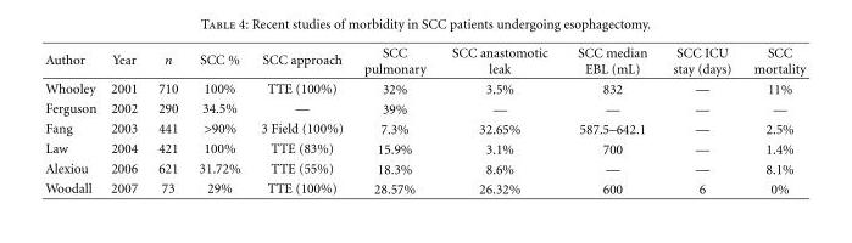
<table><thead><tr><td>Author</td><td>Year</td><td>n</td><td>SCC %</td><td>SCC approach</td><td>SCC pulmonary</td><td>SCC anastomotic leak</td><td>SCC median EBL (mL)</td><td>SCC ICU stay (days)</td><td>SCC mortality</td></tr></thead><tbody><tr><td>Whooley</td><td>2001</td><td>710</td><td>100%</td><td>TTE (100%)</td><td>32%</td><td>3.5%</td><td>832</td><td>—</td><td>11%</td></tr><tr><td>Ferguson</td><td>2002</td><td>290</td><td>34.5%</td><td>—</td><td>39%</td><td>—</td><td>—</td><td>—</td><td>—</td></tr><tr><td>Fang</td><td>2003</td><td>441</td><td>&gt;90%</td><td>3 Field (100%)</td><td>7.3%</td><td>32.65%</td><td>587.5–642.1</td><td>—</td><td>2.5%</td></tr><tr><td>Law</td><td>2004</td><td>421</td><td>100%</td><td>TTE (83%)</td><td>15.9%</td><td>3.1%</td><td>700</td><td>—</td><td>1.4%</td></tr><tr><td>Alexiou</td><td>2006</td><td>621</td><td>31.72%</td><td>TTE (55%)</td><td>18.3%</td><td>8.6%</td><td>—</td><td>—</td><td>8.1%</td></tr><tr><td>Woodall</td><td>2007</td><td>73</td><td>29%</td><td>TTE (100%)</td><td>28.57%</td><td>26.32%</td><td>600</td><td>6</td><td>0%</td></tr></tbody></table>